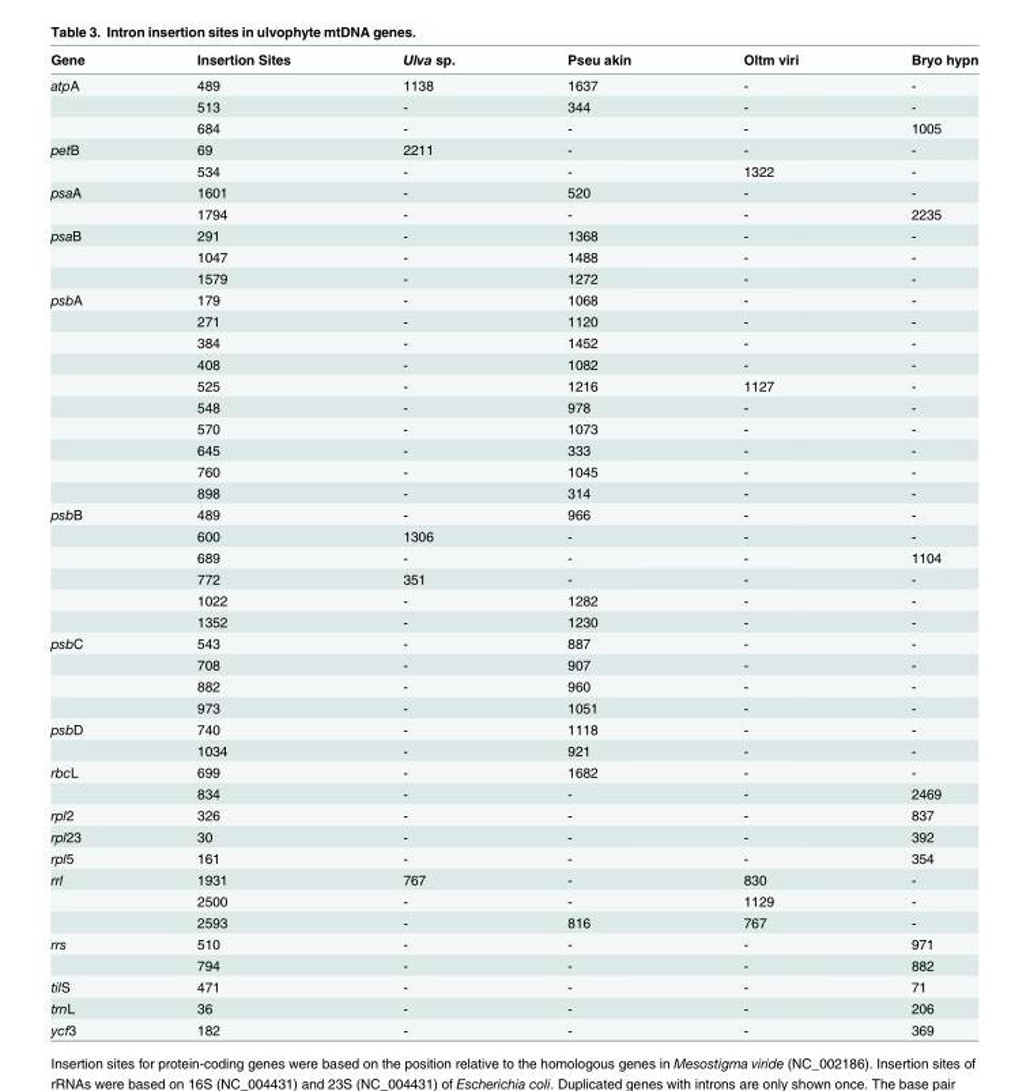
<table><thead><tr><td>Gene</td><td>Insertion Sites</td><td>Ulva sp.</td><td>Pseu akin</td><td>Oltm viri</td><td>Bryo hypn</td></tr></thead><tbody><tr><td rowspan="3">atpA</td><td>489</td><td>1138</td><td>1637</td><td>-</td><td>-</td></tr><tr><td>513</td><td>-</td><td>344</td><td>-</td><td>-</td></tr><tr><td>684</td><td>-</td><td>-</td><td>-</td><td>1005</td></tr><tr><td rowspan="2">petB</td><td>69</td><td>2211</td><td>-</td><td>-</td><td>-</td></tr><tr><td>534</td><td>-</td><td>-</td><td>1322</td><td>-</td></tr><tr><td rowspan="2">psaA</td><td>1601</td><td>-</td><td>520</td><td>-</td><td>-</td></tr><tr><td>1794</td><td>-</td><td>-</td><td>-</td><td>2235</td></tr><tr><td rowspan="3">psaB</td><td>291</td><td>-</td><td>1368</td><td>-</td><td>-</td></tr><tr><td>1047</td><td>-</td><td>1488</td><td>-</td><td>-</td></tr><tr><td>1579</td><td>-</td><td>1272</td><td>-</td><td>-</td></tr><tr><td rowspan="10">psbA</td><td>179</td><td>-</td><td>1068</td><td>-</td><td>-</td></tr><tr><td>271</td><td>-</td><td>1120</td><td>-</td><td>-</td></tr><tr><td>384</td><td>-</td><td>1452</td><td>-</td><td>-</td></tr><tr><td>408</td><td>-</td><td>1082</td><td>-</td><td>-</td></tr><tr><td>525</td><td>-</td><td>1216</td><td>1127</td><td>-</td></tr><tr><td>548</td><td>-</td><td>978</td><td>-</td><td>-</td></tr><tr><td>570</td><td>-</td><td>1073</td><td>-</td><td>-</td></tr><tr><td>645</td><td>-</td><td>333</td><td>-</td><td>-</td></tr><tr><td>760</td><td>-</td><td>1045</td><td>-</td><td>-</td></tr><tr><td>898</td><td>-</td><td>314</td><td>-</td><td>-</td></tr><tr><td rowspan="6">psbB</td><td>489</td><td>-</td><td>966</td><td>-</td><td>-</td></tr><tr><td>600</td><td>1306</td><td>-</td><td>-</td><td>-</td></tr><tr><td>689</td><td>-</td><td>-</td><td>-</td><td>1104</td></tr><tr><td>772</td><td>351</td><td>-</td><td>-</td><td>-</td></tr><tr><td>1022</td><td>-</td><td>1282</td><td>-</td><td>-</td></tr><tr><td>1352</td><td>-</td><td>1230</td><td>-</td><td>-</td></tr><tr><td rowspan="4">psbC</td><td>543</td><td>-</td><td>887</td><td>-</td><td>-</td></tr><tr><td>708</td><td>-</td><td>907</td><td>-</td><td>-</td></tr><tr><td>882</td><td>-</td><td>960</td><td>-</td><td>-</td></tr><tr><td>973</td><td>-</td><td>1051</td><td>-</td><td>-</td></tr><tr><td rowspan="2">psbD</td><td>740</td><td>-</td><td>1118</td><td>-</td><td>-</td></tr><tr><td>1034</td><td>-</td><td>921</td><td>-</td><td>-</td></tr><tr><td rowspan="2">rbcL</td><td>699</td><td>-</td><td>1682</td><td>-</td><td>-</td></tr><tr><td>834</td><td>-</td><td>-</td><td>-</td><td>2469</td></tr><tr><td>rpl2</td><td>326</td><td>-</td><td>-</td><td>-</td><td>837</td></tr><tr><td>rpl23</td><td>30</td><td>-</td><td>-</td><td>-</td><td>392</td></tr><tr><td>rpl5</td><td>161</td><td>-</td><td>-</td><td>-</td><td>354</td></tr><tr><td rowspan="3">rrl</td><td>1931</td><td>767</td><td>-</td><td>830</td><td>-</td></tr><tr><td>2500</td><td>-</td><td>-</td><td>1129</td><td>-</td></tr><tr><td>2593</td><td>-</td><td>816</td><td>767</td><td>-</td></tr><tr><td rowspan="2">rrs</td><td>510</td><td>-</td><td>-</td><td>-</td><td>971</td></tr><tr><td>794</td><td>-</td><td>-</td><td>-</td><td>882</td></tr><tr><td>tilS</td><td>471</td><td>-</td><td>-</td><td>-</td><td>71</td></tr><tr><td>trnL</td><td>36</td><td>-</td><td>-</td><td>-</td><td>206</td></tr><tr><td>ycf3</td><td>182</td><td>-</td><td>-</td><td>-</td><td>369</td></tr></tbody></table>